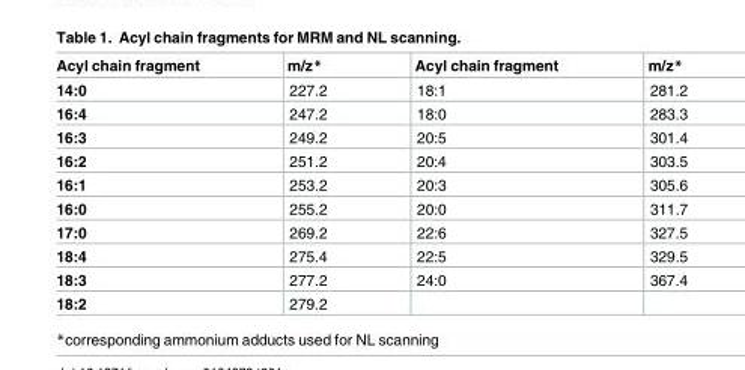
<table><thead><tr><td>Acyl chain fragment</td><td>m/z*</td><td>Acyl chain fragment</td><td>m/z*</td></tr></thead><tbody><tr><td>14:0</td><td>227.2</td><td>18:1</td><td>281.2</td></tr><tr><td>16:4</td><td>247.2</td><td>18:0</td><td>283.3</td></tr><tr><td>16:3</td><td>249.2</td><td>20:5</td><td>301.4</td></tr><tr><td>16:2</td><td>251.2</td><td>20:4</td><td>303.5</td></tr><tr><td>16:1</td><td>253.2</td><td>20:3</td><td>305.6</td></tr><tr><td>16:0</td><td>255.2</td><td>20:0</td><td>311.7</td></tr><tr><td>17:0</td><td>269.2</td><td>22:6</td><td>327.5</td></tr><tr><td>18:4</td><td>275.4</td><td>22:5</td><td>329.5</td></tr><tr><td>18:3</td><td>277.2</td><td>24:0</td><td>367.4</td></tr><tr><td>18:2</td><td>279.2</td><td></td><td></td></tr></tbody></table>